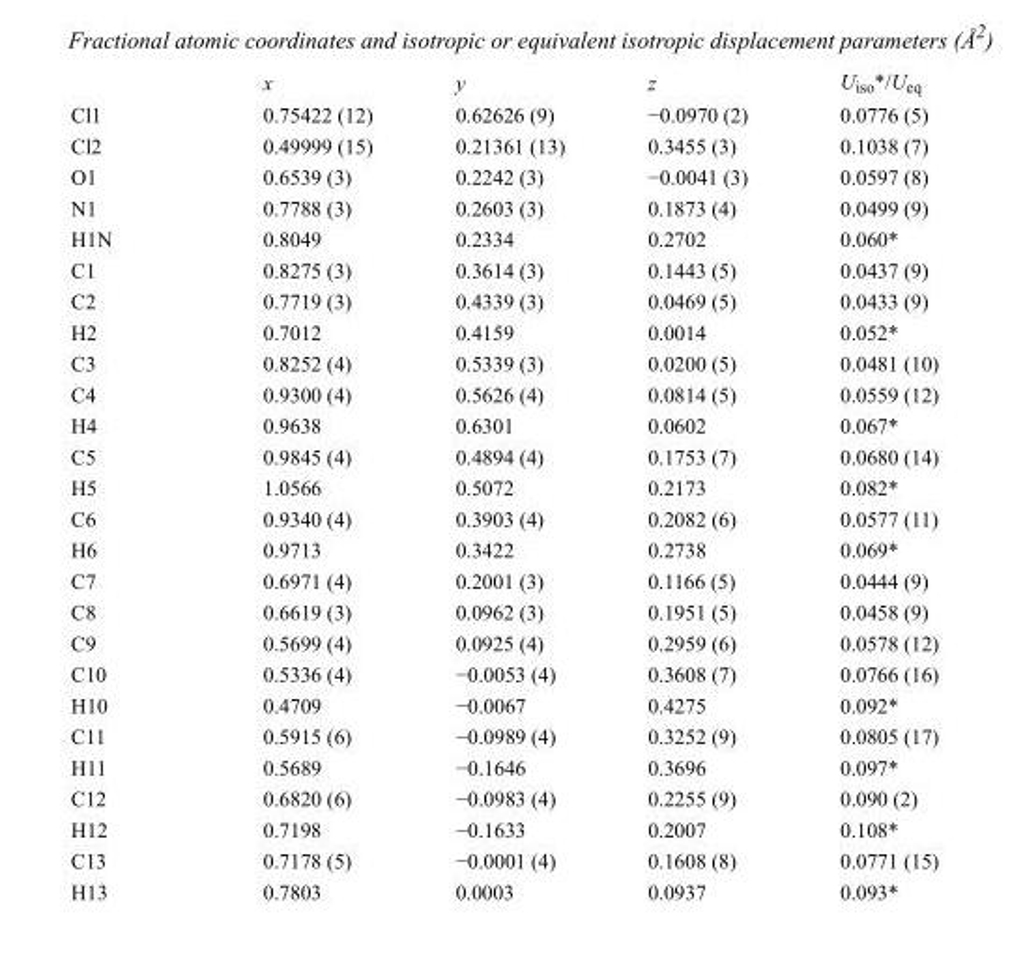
<table><thead><tr><td></td><td>x</td><td>y</td><td>z</td><td>U<sub>iso</sub>*/U<sub>eq</sub></td></tr></thead><tbody><tr><td>Cl1</td><td>0.75422 (12)</td><td>0.62626 (9)</td><td>−0.0970 (2)</td><td>0.0776 (5)</td></tr><tr><td>Cl2</td><td>0.49999 (15)</td><td>0.21361 (13)</td><td>0.3455 (3)</td><td>0.1038 (7)</td></tr><tr><td>O1</td><td>0.6539 (3)</td><td>0.2242 (3)</td><td>−0.0041 (3)</td><td>0.0597 (8)</td></tr><tr><td>N1</td><td>0.7788 (3)</td><td>0.2603 (3)</td><td>0.1873 (4)</td><td>0.0499 (9)</td></tr><tr><td>H1N</td><td>0.8049</td><td>0.2334</td><td>0.2702</td><td>0.060*</td></tr><tr><td>C1</td><td>0.8275 (3)</td><td>0.3614 (3)</td><td>0.1443 (5)</td><td>0.0437 (9)</td></tr><tr><td>C2</td><td>0.7719 (3)</td><td>0.4339 (3)</td><td>0.0469 (5)</td><td>0.0433 (9)</td></tr><tr><td>H2</td><td>0.7012</td><td>0.4159</td><td>0.0014</td><td>0.052*</td></tr><tr><td>C3</td><td>0.8252 (4)</td><td>0.5339 (3)</td><td>0.0200 (5)</td><td>0.0481 (10)</td></tr><tr><td>C4</td><td>0.9300 (4)</td><td>0.5626 (4)</td><td>0.0814 (5)</td><td>0.0559 (12)</td></tr><tr><td>H4</td><td>0.9638</td><td>0.6301</td><td>0.0602</td><td>0.067*</td></tr><tr><td>C5</td><td>0.9845 (4)</td><td>0.4894 (4)</td><td>0.1753 (7)</td><td>0.0680 (14)</td></tr><tr><td>H5</td><td>1.0566</td><td>0.5072</td><td>0.2173</td><td>0.082*</td></tr><tr><td>C6</td><td>0.9340 (4)</td><td>0.3903 (4)</td><td>0.2082 (6)</td><td>0.0577 (11)</td></tr><tr><td>H6</td><td>0.9713</td><td>0.3422</td><td>0.2738</td><td>0.069*</td></tr><tr><td>C7</td><td>0.6971 (4)</td><td>0.2001 (3)</td><td>0.1166 (5)</td><td>0.0444 (9)</td></tr><tr><td>C8</td><td>0.6619 (3)</td><td>0.0962 (3)</td><td>0.1951 (5)</td><td>0.0458 (9)</td></tr><tr><td>C9</td><td>0.5699 (4)</td><td>0.0925 (4)</td><td>0.2959 (6)</td><td>0.0578 (12)</td></tr><tr><td>C10</td><td>0.5336 (4)</td><td>−0.0053 (4)</td><td>0.3608 (7)</td><td>0.0766 (16)</td></tr><tr><td>H10</td><td>0.4709</td><td>−0.0067</td><td>0.4275</td><td>0.092*</td></tr><tr><td>C11</td><td>0.5915 (6)</td><td>−0.0989 (4)</td><td>0.3252 (9)</td><td>0.0805 (17)</td></tr><tr><td>H11</td><td>0.5689</td><td>−0.1646</td><td>0.3696</td><td>0.097*</td></tr><tr><td>C12</td><td>0.6820 (6)</td><td>−0.0983 (4)</td><td>0.2255 (9)</td><td>0.090 (2)</td></tr><tr><td>H12</td><td>0.7198</td><td>−0.1633</td><td>0.2007</td><td>0.108*</td></tr><tr><td>C13</td><td>0.7178 (5)</td><td>−0.0001 (4)</td><td>0.1608 (8)</td><td>0.0771 (15)</td></tr><tr><td>H13</td><td>0.7803</td><td>0.0003</td><td>0.0937</td><td>0.093*</td></tr></tbody></table>